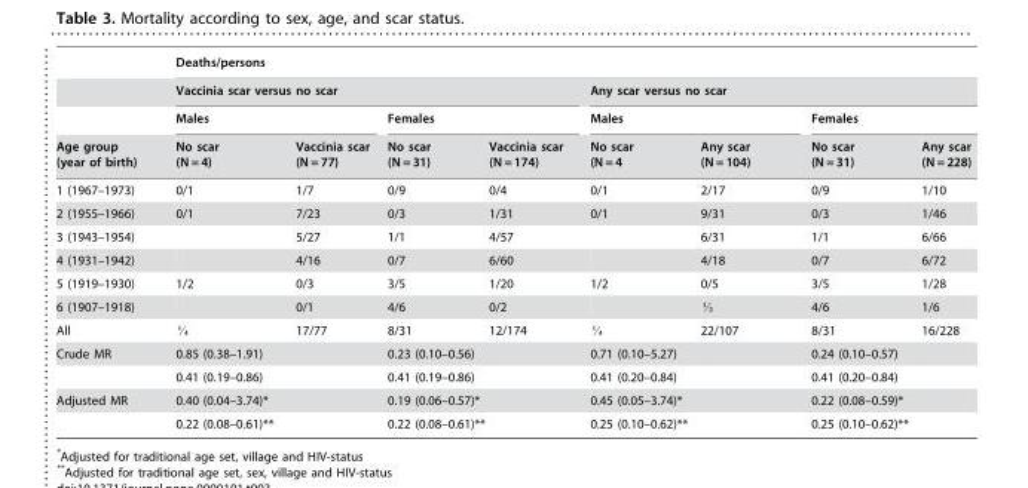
<table><thead><tr><td rowspan="4">Age group (year of birth)</td><td colspan="8">Deaths/persons</td></tr><tr><td colspan="4">Vaccinia scar versus no scar</td><td colspan="4">Any scar versus no scar</td></tr><tr><td colspan="2">Males</td><td colspan="2">Females</td><td colspan="2">Males</td><td colspan="2">Females</td></tr><tr><td>No scar (N = 4)</td><td>Vaccinia scar (N = 77)</td><td>No scar (N = 31)</td><td>Vaccinia scar (N = 174)</td><td>No scar (N = 4</td><td>Any scar (N = 104)</td><td>No scar (N = 31)</td><td>Any scar (N = 228)</td></tr></thead><tbody><tr><td>1 (1967–1973)</td><td>0/1</td><td>1/7</td><td>0/9</td><td>0/4</td><td>0/1</td><td>2/17</td><td>0/9</td><td>1/10</td></tr><tr><td>2 (1955–1966)</td><td>0/1</td><td>7/23</td><td>0/3</td><td>1/31</td><td>0/1</td><td>9/31</td><td>0/3</td><td>1/46</td></tr><tr><td>3 (1943–1954)</td><td></td><td>5/27</td><td>1/1</td><td>4/57</td><td></td><td>6/31</td><td>1/1</td><td>6/66</td></tr><tr><td>4 (1931–1942)</td><td></td><td>4/16</td><td>0/7</td><td>6/60</td><td></td><td>4/18</td><td>0/7</td><td>6/72</td></tr><tr><td>5 (1919–1930)</td><td>1/2</td><td>0/3</td><td>3/5</td><td>1/20</td><td>1/2</td><td>0/5</td><td>3/5</td><td>1/28</td></tr><tr><td>6 (1907–1918)</td><td></td><td>0/1</td><td>4/6</td><td>0/2</td><td></td><td>K</td><td>4/6</td><td>1/6</td></tr><tr><td>All</td><td>J</td><td>17/77</td><td>8/31</td><td>12/174</td><td>J</td><td>22/107</td><td>8/31</td><td>16/228</td></tr><tr><td rowspan="2">Crude MR</td><td colspan="2">0.85 (0.38–1.91)</td><td colspan="2">0.23 (0.10–0.56)</td><td colspan="2">0.71 (0.10–5.27)</td><td colspan="2">0.24 (0.10–0.57)</td></tr><tr><td>0.41 (0.19–0.86)</td><td></td><td>0.41 (0.19–0.86)</td><td></td><td>0.41 (0.20–0.84)</td><td></td><td>0.41 (0.20–0.84)</td><td></td></tr><tr><td rowspan="2">Adjusted MR</td><td colspan="2">0.40 (0.04–3.74)*</td><td colspan="2">0.19 (0.06–0.57)*</td><td colspan="2">0.45 (0.05–3.74)*</td><td colspan="2">0.22 (0.08–0.59)*</td></tr><tr><td>0.22 (0.08–0.61)**</td><td></td><td>0.22 (0.08–0.61)**</td><td></td><td>0.25 (0.10–0.62)**</td><td></td><td>0.25 (0.10–0.62)**</td><td></td></tr></tbody></table>